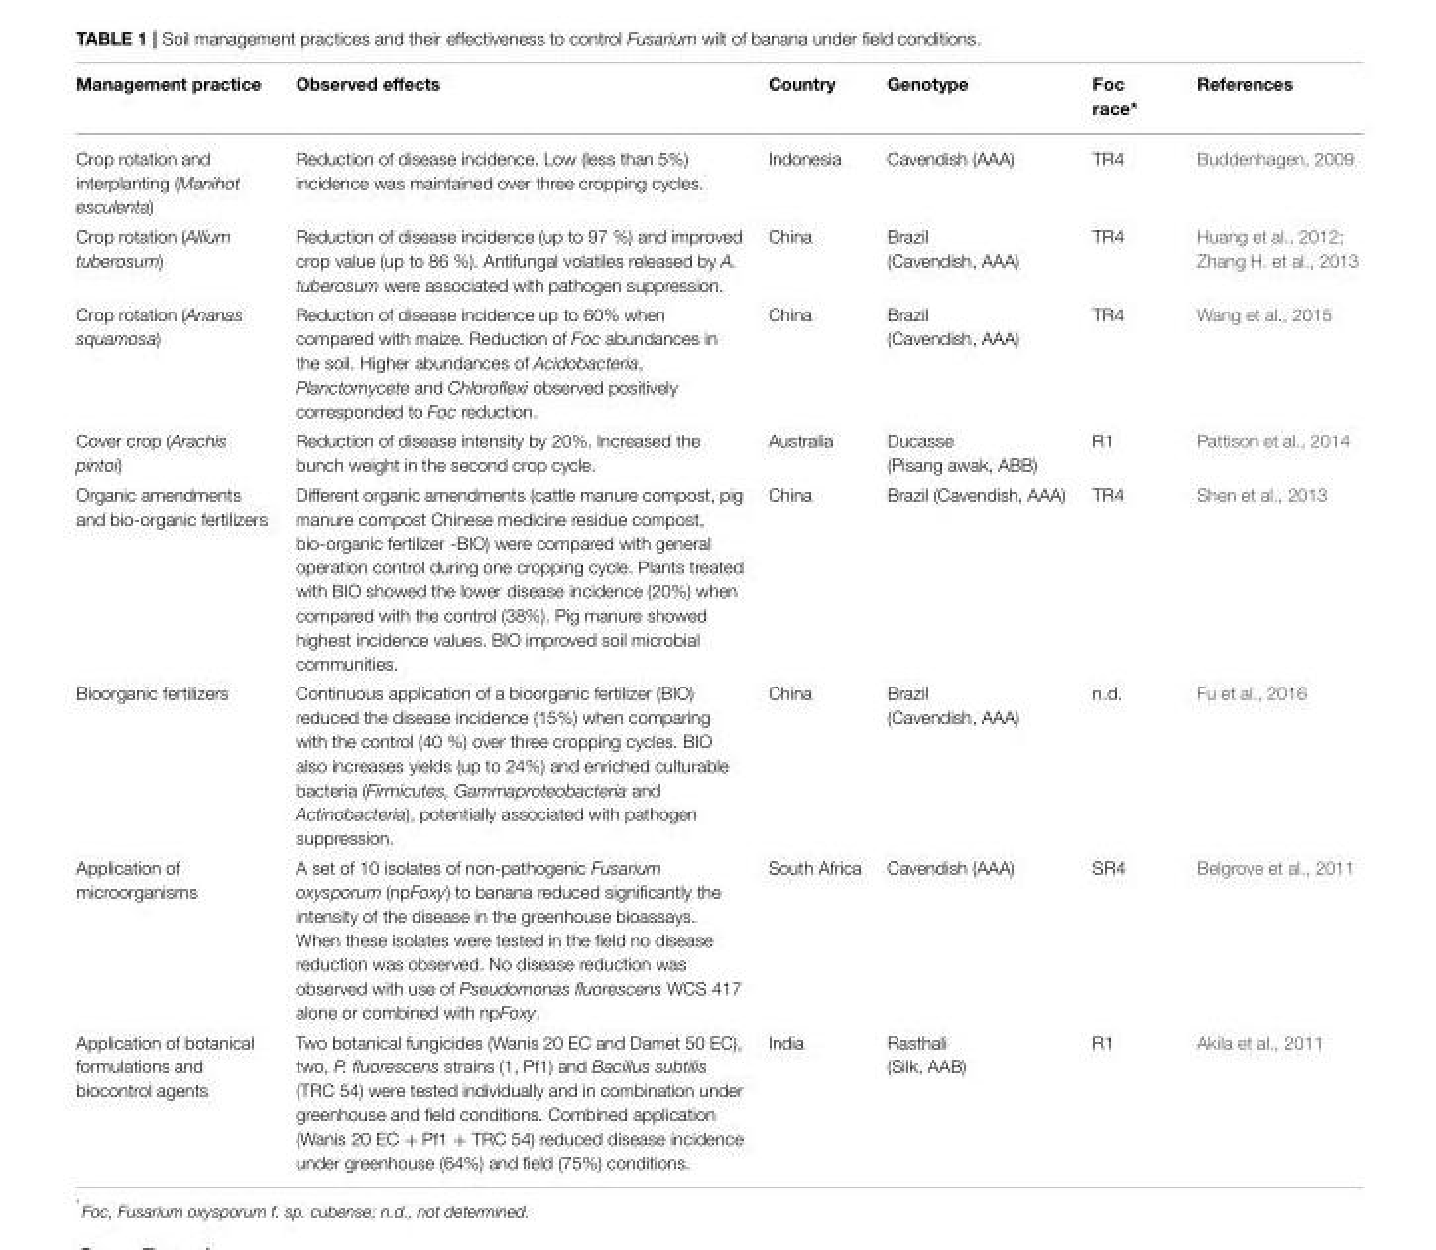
<table><thead><tr><td>Management practice</td><td>Observed effects</td><td>Country</td><td>Genotype</td><td>Foc race*</td><td>References</td></tr></thead><tbody><tr><td>Crop rotation and interplanting (Manihot esculenta)</td><td>Reduction of disease incidence. Low (less than 5%) incidence was maintained over three cropping cycles.</td><td>Indonesia</td><td>Cavendish (AAA)</td><td>TR4</td><td>Buddenhagen, 2009</td></tr><tr><td>Crop rotation (Allium tuberosum)</td><td>Reduction of disease incidence (up to 97 %) and improved crop value (up to 86 %). Antifungal volatiles released by A. tuberosum were associated with pathogen suppression.</td><td>China</td><td>Brazil (Cavendish, AAA)</td><td>TR4</td><td>Huang et al., 2012; Zhang H. et al., 2013</td></tr><tr><td>Crop rotation (Ananas squamosa)</td><td>Reduction of disease incidence up to 60% when compared with maize. Reduction of Foc abundances in the soil. Higher abundances of Acidobacteria, Planctomycete and Chloroflexi observed positively corresponded to Foc reduction.</td><td>China</td><td>Brazil (Cavendish, AAA)</td><td>TR4</td><td>Wang et al., 2015</td></tr><tr><td>Cover crop (Arachis pintoi)</td><td>Reduction of disease intensity by 20%. Increased the bunch weight in the second crop cycle.</td><td>Australia</td><td>Ducasse (Pisang awak, ABB)</td><td>R1</td><td>Pattison et al., 2014</td></tr><tr><td>Organic amendments and bio-organic fertilizers</td><td>Different organic amendments (cattle manure compost, pig manure compost Chinese medicine residue compost, bio-organic fertilizer -BIO) were compared with general operation control during one cropping cycle. Plants treated with BIO showed the lower disease incidence (20%) when compared with the control (38%). Pig manure showed highest incidence values. BIO improved soil microbial communities.</td><td>China</td><td>Brazil (Cavendish, AAA)</td><td>TR4</td><td>Shen et al., 2013</td></tr><tr><td>Bioorganic fertilizers</td><td>Continuous application of a bioorganic fertilizer (BIO) reduced the disease incidence (15%) when comparing with the control (40 %) over three cropping cycles. BIO also increases yields (up to 24%) and enriched culturable bacteria (Firmicutes, Gammaproteobacteria and Actinobacteria), potentially associated with pathogen suppression.</td><td>China</td><td>Brazil (Cavendish, AAA)</td><td>n.d.</td><td>Fu et al., 2016</td></tr><tr><td>Application of microorganisms</td><td>A set of 10 isolates of non-pathogenic Fusarium oxysporum (npFoxy) to banana reduced significantly the intensity of the disease in the greenhouse bioassays. When these isolates were tested in the field no disease reduction was observed. No disease reduction was observed with use of Pseudomonas fluorescens WCS 417 alone or combined with npFoxy.</td><td>South Africa</td><td>Cavendish (AAA)</td><td>SR4</td><td>Belgrove et al., 2011</td></tr><tr><td>Application of botanical formulations and biocontrol agents</td><td>Two botanical fungicides (Wanis 20 EC and Damet 50 EC), two, P. fluorescens strains (1, Pf1) and Bacillus subtilis (TRC 54) were tested individually and in combination under greenhouse and field conditions. Combined application (Wanis 20 EC + Pf1 + TRC 54) reduced disease incidence under greenhouse (64%) and field (75%) conditions.</td><td>India</td><td>Rasthali (Silk, AAB)</td><td>R1</td><td>Akila et al., 2011</td></tr></tbody></table>